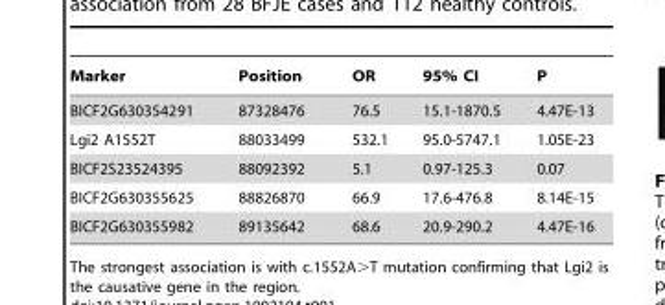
<table><thead><tr><td>Marker</td><td>Position</td><td>OR</td><td>95% CI</td><td>P</td></tr></thead><tbody><tr><td>BICF2G630354291</td><td>87328476</td><td>76.5</td><td>15.1-1870.5</td><td>4.47E-13</td></tr><tr><td>Lgi2 A1552T</td><td>88033499</td><td>532.1</td><td>95.0-5747.1</td><td>1.05E-23</td></tr><tr><td>BICF2S23524395</td><td>88092392</td><td>5.1</td><td>0.97-125.3</td><td>0.07</td></tr><tr><td>BICF2G630355625</td><td>88826870</td><td>66.9</td><td>17.6-476.8</td><td>8.14E-15</td></tr><tr><td>BICF2G630355982</td><td>89135642</td><td>68.6</td><td>20.9-290.2</td><td>4.47E-16</td></tr></tbody></table>